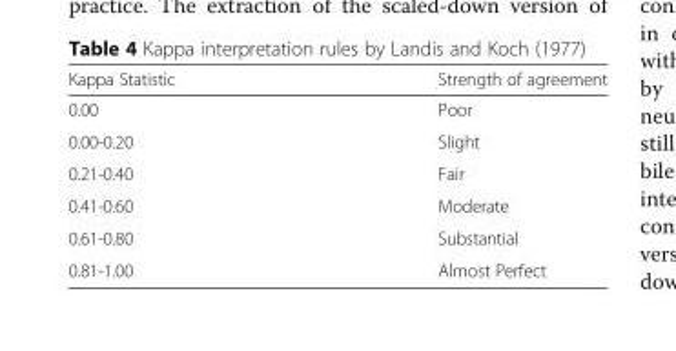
<table><thead><tr><td>Kappa Statistic</td><td>Strength of agreement</td></tr></thead><tbody><tr><td>0.00</td><td>Poor</td></tr><tr><td>0.00-0.20</td><td>Slight</td></tr><tr><td>0.21-0.40</td><td>Fair</td></tr><tr><td>0.41-0.60</td><td>Moderate</td></tr><tr><td>0.61-0.80</td><td>Substantial</td></tr><tr><td>0.81-1.00</td><td>Almost Perfect</td></tr></tbody></table>